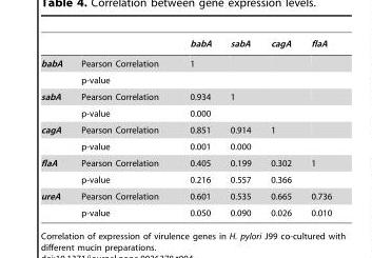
<table><thead><tr><td></td><td></td><td>babA</td><td>sabA</td><td>cagA</td><td>flaA</td></tr></thead><tbody><tr><td rowspan="2">babA</td><td>Pearson Correlation</td><td>1</td><td></td><td></td><td></td></tr><tr><td>p-value</td><td></td><td></td><td></td><td></td></tr><tr><td rowspan="2">sabA</td><td>Pearson Correlation</td><td>0.934</td><td>1</td><td></td><td></td></tr><tr><td>p-value</td><td>0.000</td><td></td><td></td><td></td></tr><tr><td rowspan="2">cagA</td><td>Pearson Correlation</td><td>0.851</td><td>0.914</td><td>1</td><td></td></tr><tr><td>p-value</td><td>0.001</td><td>0.000</td><td></td><td></td></tr><tr><td rowspan="2">flaA</td><td>Pearson Correlation</td><td>0.405</td><td>0.199</td><td>0.302</td><td>1</td></tr><tr><td>p-value</td><td>0.216</td><td>0.557</td><td>0.366</td><td></td></tr><tr><td rowspan="2">ureA</td><td>Pearson Correlation</td><td>0.601</td><td>0.535</td><td>0.665</td><td>0.736</td></tr><tr><td>p-value</td><td>0.050</td><td>0.090</td><td>0.026</td><td>0.010</td></tr></tbody></table>